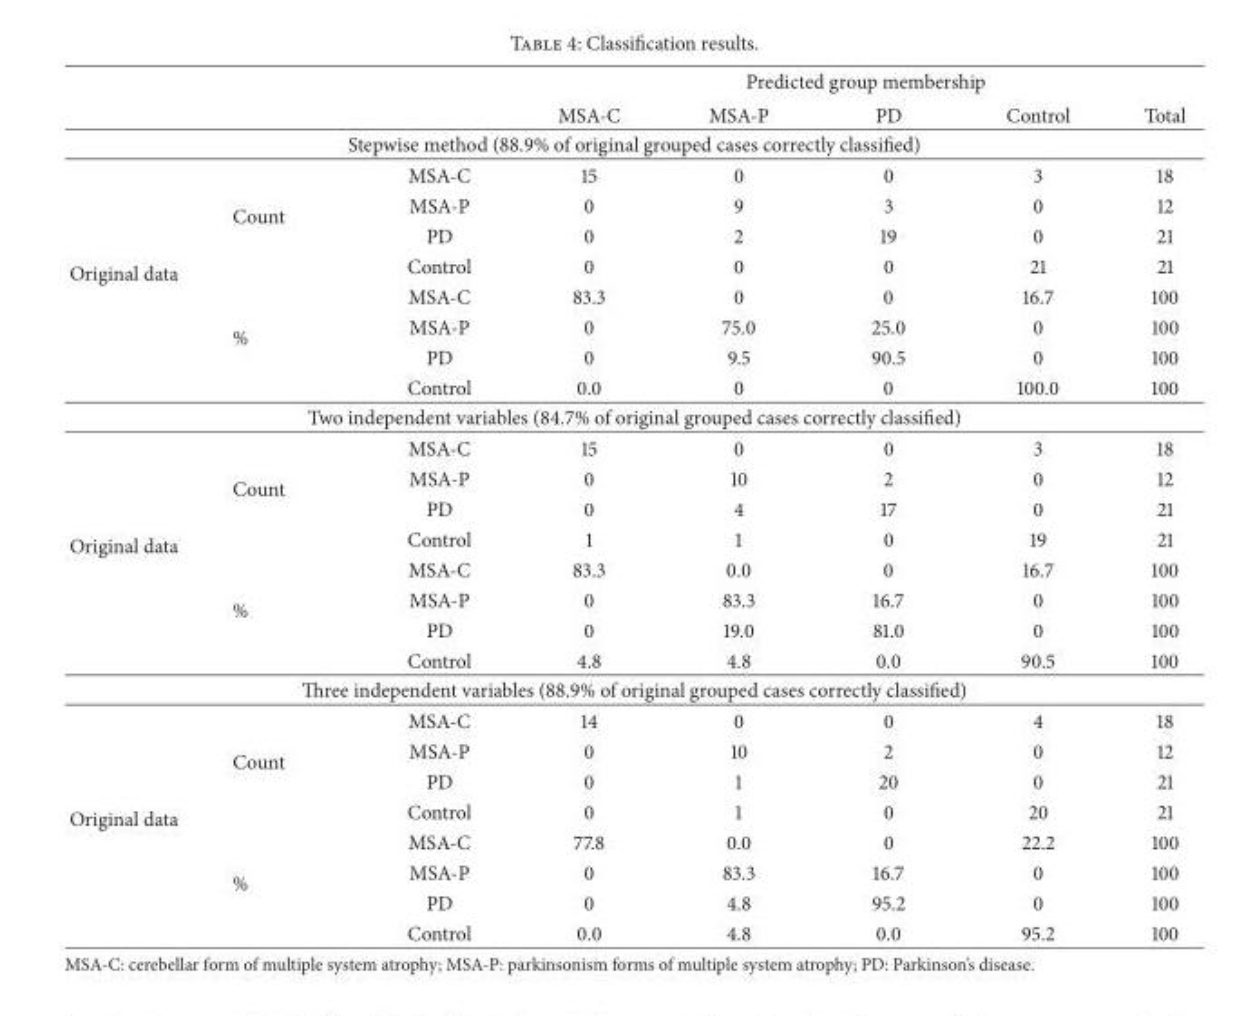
<table><thead><tr><td rowspan="2"></td><td rowspan="2"></td><td rowspan="2"></td><td colspan="5">Predicted group membership</td></tr><tr><td>MSA-C</td><td>MSA-P</td><td>PD</td><td>Control</td><td>Total</td></tr></thead><tbody><tr><td colspan="8">Stepwise method (88.9% of original grouped cases correctly classified)</td></tr><tr><td rowspan="8">Original data</td><td rowspan="4">Count</td><td>MSA-C</td><td>15</td><td>0</td><td>0</td><td>3</td><td>18</td></tr><tr><td>MSA-P</td><td>0</td><td>9</td><td>3</td><td>0</td><td>12</td></tr><tr><td>PD</td><td>0</td><td>2</td><td>19</td><td>0</td><td>21</td></tr><tr><td>Control</td><td>0</td><td>0</td><td>0</td><td>21</td><td>21</td></tr><tr><td rowspan="4">%</td><td>MSA-C</td><td>83.3</td><td>0</td><td>0</td><td>16.7</td><td>100</td></tr><tr><td>MSA-P</td><td>0</td><td>75.0</td><td>25.0</td><td>0</td><td>100</td></tr><tr><td>PD</td><td>0</td><td>9.5</td><td>90.5</td><td>0</td><td>100</td></tr><tr><td>Control</td><td>0.0</td><td>0</td><td>0</td><td>100.0</td><td>100</td></tr><tr><td colspan="8">Two independent variables (84.7% of original grouped cases correctly classified)</td></tr><tr><td rowspan="8">Original data</td><td rowspan="4">Count</td><td>MSA-C</td><td>15</td><td>0</td><td>0</td><td>3</td><td>18</td></tr><tr><td>MSA-P</td><td>0</td><td>10</td><td>2</td><td>0</td><td>12</td></tr><tr><td>PD</td><td>0</td><td>4</td><td>17</td><td>0</td><td>21</td></tr><tr><td>Control</td><td>1</td><td>1</td><td>0</td><td>19</td><td>21</td></tr><tr><td rowspan="4">%</td><td>MSA-C</td><td>83.3</td><td>0.0</td><td>0</td><td>16.7</td><td>100</td></tr><tr><td>MSA-P</td><td>0</td><td>83.3</td><td>16.7</td><td>0</td><td>100</td></tr><tr><td>PD</td><td>0</td><td>19.0</td><td>81.0</td><td>0</td><td>100</td></tr><tr><td>Control</td><td>4.8</td><td>4.8</td><td>0.0</td><td>90.5</td><td>100</td></tr><tr><td colspan="8">Three independent variables (88.9% of original grouped cases correctly classified)</td></tr><tr><td rowspan="8">Original data</td><td rowspan="4">Count</td><td>MSA-C</td><td>14</td><td>0</td><td>0</td><td>4</td><td>18</td></tr><tr><td>MSA-P</td><td>0</td><td>10</td><td>2</td><td>0</td><td>12</td></tr><tr><td>PD</td><td>0</td><td>1</td><td>20</td><td>0</td><td>21</td></tr><tr><td>Control</td><td>0</td><td>1</td><td>0</td><td>20</td><td>21</td></tr><tr><td rowspan="4">%</td><td>MSA-C</td><td>77.8</td><td>0.0</td><td>0</td><td>22.2</td><td>100</td></tr><tr><td>MSA-P</td><td>0</td><td>83.3</td><td>16.7</td><td>0</td><td>100</td></tr><tr><td>PD</td><td>0</td><td>4.8</td><td>95.2</td><td>0</td><td>100</td></tr><tr><td>Control</td><td>0.0</td><td>4.8</td><td>0.0</td><td>95.2</td><td>100</td></tr></tbody></table>